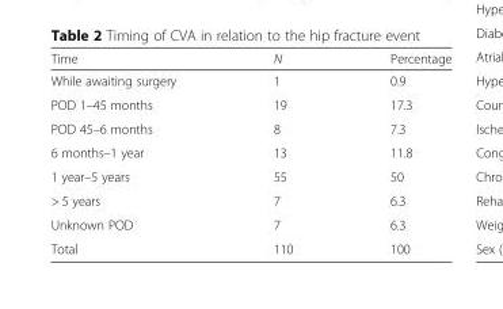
<table><thead><tr><td>Time</td><td>N</td><td>Percentage</td></tr></thead><tbody><tr><td>While awaiting surgery</td><td>1</td><td>0.9</td></tr><tr><td>POD 1–45 months</td><td>19</td><td>17.3</td></tr><tr><td>POD 45–6 months</td><td>8</td><td>7.3</td></tr><tr><td>6 months–1 year</td><td>13</td><td>11.8</td></tr><tr><td>1 year–5 years</td><td>55</td><td>50</td></tr><tr><td>&gt; 5 years</td><td>7</td><td>6.3</td></tr><tr><td>Unknown POD</td><td>7</td><td>6.3</td></tr><tr><td>Total</td><td>110</td><td>100</td></tr></tbody></table>